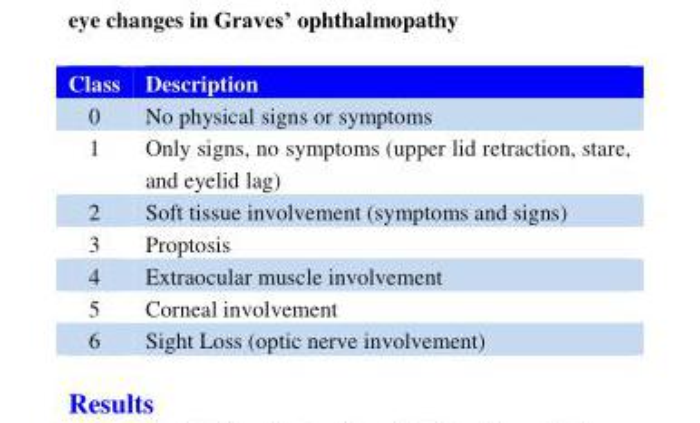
<table><thead><tr><td>Class</td><td>Description</td></tr></thead><tbody><tr><td>0</td><td>No physical signs or symptoms</td></tr><tr><td>1</td><td>Only signs, no symptoms (upper lid retraction, stare, and eyelid lag)</td></tr><tr><td>2</td><td>Soft tissue involvement (symptoms and signs)</td></tr><tr><td>3</td><td>Proptosis</td></tr><tr><td>4</td><td>Extraocular muscle involvement</td></tr><tr><td>5</td><td>Corneal involvement</td></tr><tr><td>6</td><td>Sight Loss (optic nerve involvement)</td></tr></tbody></table>